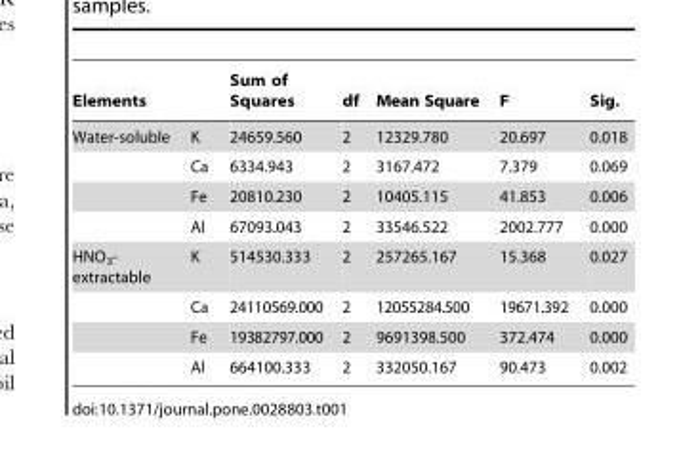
<table><thead><tr><td colspan="2">Elements</td><td rowspan="2">Sum of Squares 24659.560</td><td rowspan="2">df 2</td><td rowspan="2">Mean Square 12329.780</td><td rowspan="2">F 20.697</td><td rowspan="2">Sig. 0.018</td></tr><tr><td>Water-soluble</td><td>K</td></tr></thead><tbody><tr><td></td><td>Ca</td><td>6334.943</td><td>2</td><td>3167.472</td><td>7.379</td><td>0.069</td></tr><tr><td></td><td>Fe</td><td>20810.230</td><td>2</td><td>10405.115</td><td>41.853</td><td>0.006</td></tr><tr><td></td><td>Al</td><td>67093.043</td><td>2</td><td>33546.522</td><td>2002.777</td><td>0.000</td></tr><tr><td rowspan="4">HNO<sub>3</sub>- extractable</td><td>K</td><td>514530.333</td><td>2</td><td>257265.167</td><td>15.368</td><td>0.027</td></tr><tr><td>Ca</td><td>24110569.000</td><td>2</td><td>12055284.500</td><td>19671.392</td><td>0.000</td></tr><tr><td>Fe</td><td>19382797.000</td><td>2</td><td>9691398.500</td><td>372.474</td><td>0.000</td></tr><tr><td>Al</td><td>664100.333</td><td>2</td><td>332050.167</td><td>90.473</td><td>0.002</td></tr></tbody></table>